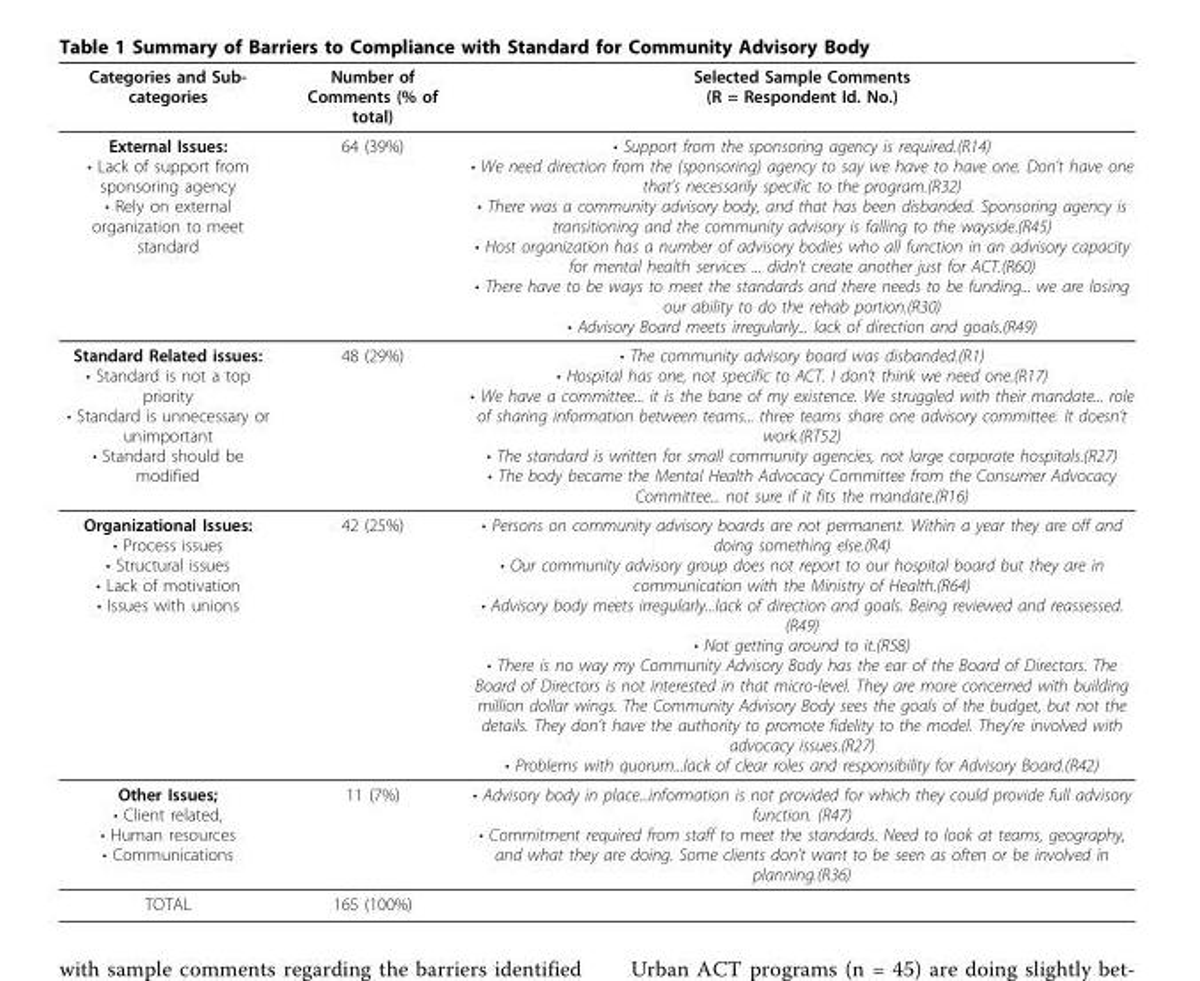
<table><thead><tr><td>Categories and Sub- categories</td><td>Number of Comments (% of total)</td><td>Selected Sample Comments (R = Respondent Id. No.)</td></tr></thead><tbody><tr><td>External Issues: • Lack of support from sponsoring agency • Rely on external organization to meet standard</td><td>64 (39%)</td><td>• Support from the sponsoring agency is required.(R14) • We need direction from the (sponsoring) agency to say we have to have one. Don’t have one that’s necessarily specific to the program.(R32) • There was a community advisory body, and that has been disbanded. Sponsoring agency is transitioning and the community advisory is falling to the wayside.(R45) • Host organization has a number of advisory bodies who all function in an advisory capacity for mental health services ... didn’t create another just for ACT.(R60) • There have to be ways to meet the standards and there needs to be funding... we are losing our ability to do the rehab portion.(R30) • Advisory Board meets irregularly... lack of direction and goals.(R49)</td></tr><tr><td>Standard Related issues: • Standard is not a top priority • Standard is unnecessary or unimportant • Standard should be modified</td><td>48 (29%)</td><td>• The community advisory board was disbanded.(R1) • Hospital has one, not specific to ACT. I don’t think we need one.(R17) • We have a committee... it is the bane of my existence. We struggled with their mandate... role of sharing information between teams... three teams share one advisory committee. It doesn’t work.(RT52) • The standard is written for small community agencies, not large corporate hospitals.(R27) • The body became the Mental Health Advocacy Committee from the Consumer Advocacy Committee... not sure if it fits the mandate.(R16)</td></tr><tr><td>Organizational Issues: • Process issues • Structural issues • Lack of motivation • Issues with unions</td><td>42 (25%)</td><td>• Persons on community advisory boards are not permanent. Within a year they are off and doing something else.(R4) • Our community advisory group does not report to our hospital board but they are in communication with the Ministry of Health.(R64) • Advisory body meets irregularly...lack of direction and goals. Being reviewed and reassessed. (R49) • Not getting around to it.(R58) • There is no way my Community Advisory Body has the ear of the Board of Directors. The Board of Directors is not interested in that micro-level. They are more concerned with building million dollar wings. The Community Advisory Body sees the goals of the budget, but not the details. They don’t have the authority to promote fidelity to the model. They’re involved with advocacy issues.(R27) • Problems with quorum...lack of clear roles and responsibility for Advisory Board.(R42)</td></tr><tr><td>Other Issues; • Client related, • Human resources • Communications</td><td>11 (7%)</td><td>• Advisory body in place...information is not provided for which they could provide full advisory function. (R47) • Commitment required from staff to meet the standards. Need to look at teams, geography, and what they are doing. Some clients don’t want to be seen as often or be involved in planning.(R36)</td></tr><tr><td>TOTAL</td><td>165 (100%)</td><td></td></tr></tbody></table>